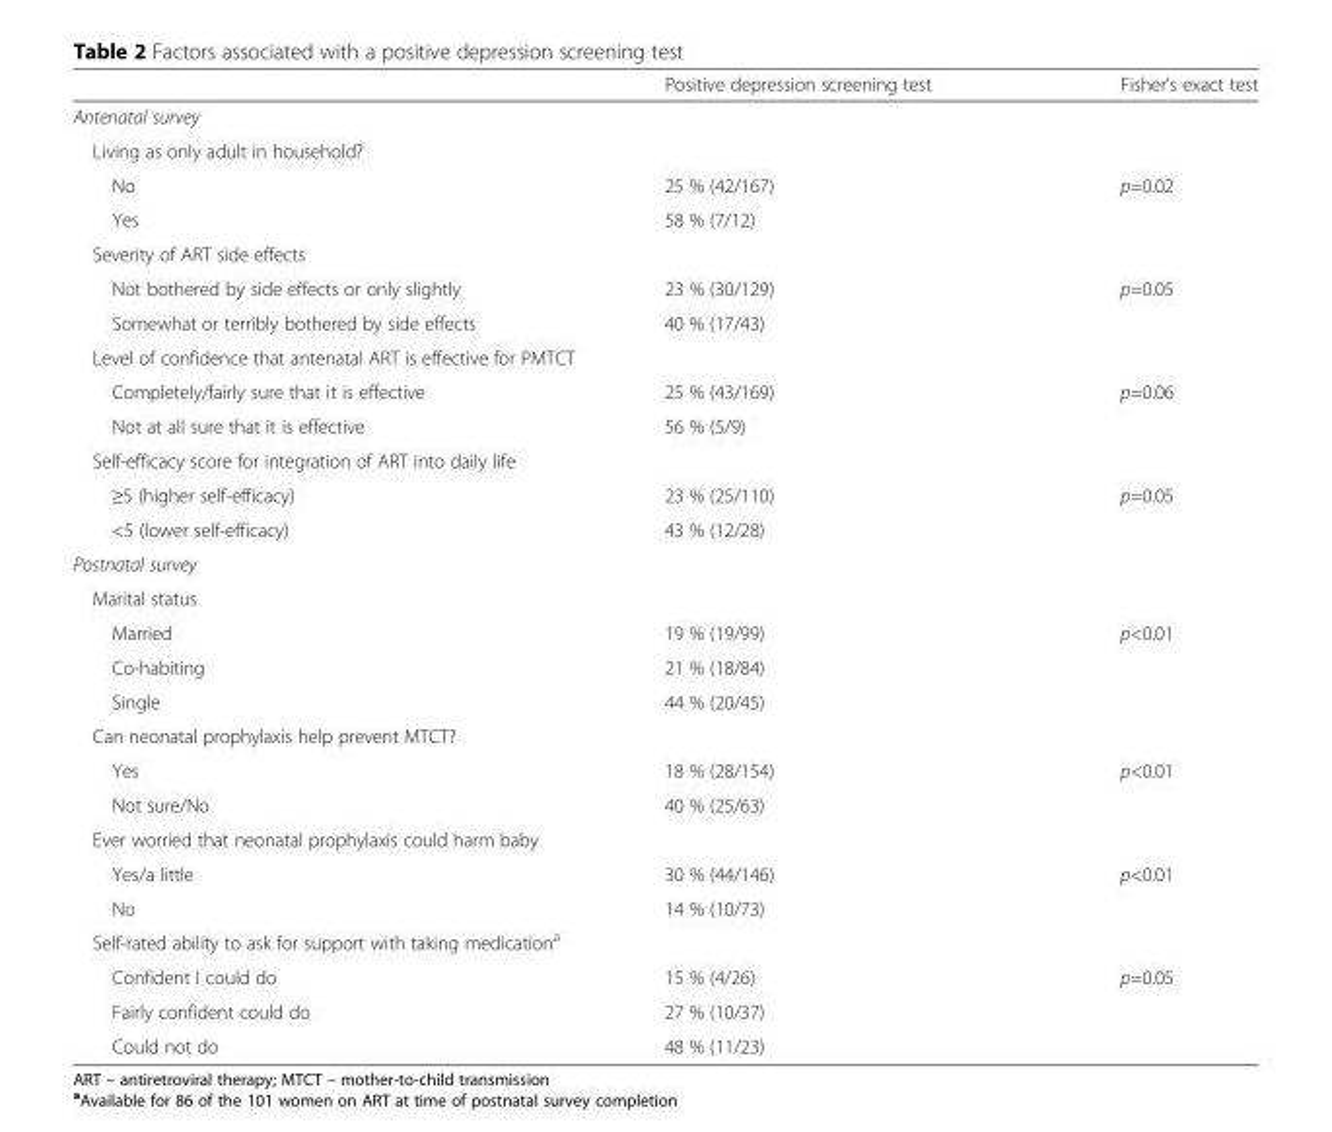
<table><thead><tr><td></td><td>Positive depression screening test</td><td>Fisher’s exact test</td></tr></thead><tbody><tr><td colspan="3">Antenatal survey</td></tr><tr><td colspan="3">Living as only adult in household?</td></tr><tr><td>No</td><td>25 % (42/167)</td><td>p=0.02</td></tr><tr><td>Yes</td><td>58 % (7/12)</td><td></td></tr><tr><td colspan="3">Severity of ART side effects</td></tr><tr><td>Not bothered by side effects or only slightly</td><td>23 % (30/129)</td><td>p=0.05</td></tr><tr><td>Somewhat or terribly bothered by side effects</td><td>40 % (17/43)</td><td></td></tr><tr><td colspan="3">Level of confidence that antenatal ART is effective for PMTCT</td></tr><tr><td>Completely/fairly sure that it is effective</td><td>25 % (43/169)</td><td>p=0.06</td></tr><tr><td>Not at all sure that it is effective</td><td>56 % (5/9)</td><td></td></tr><tr><td colspan="3">Self-efficacy score for integration of ART into daily life</td></tr><tr><td>≥5 (higher self-efficacy)</td><td>23 % (25/110)</td><td>p=0.05</td></tr><tr><td>&lt;5 (lower self-efficacy)</td><td>43 % (12/28)</td><td></td></tr><tr><td colspan="3">Postnatal survey</td></tr><tr><td colspan="3">Marital status</td></tr><tr><td>Married</td><td>19 % (19/99)</td><td>p&lt;0.01</td></tr><tr><td>Co-habiting</td><td>21 % (18/84)</td><td></td></tr><tr><td>Single</td><td>44 % (20/45)</td><td></td></tr><tr><td colspan="3">Can neonatal prophylaxis help prevent MTCT?</td></tr><tr><td>Yes</td><td>18 % (28/154)</td><td>p&lt;0.01</td></tr><tr><td>Not sure/No</td><td>40 % (25/63)</td><td></td></tr><tr><td colspan="3">Ever worried that neonatal prophylaxis could harm baby</td></tr><tr><td>Yes/a little</td><td>30 % (44/146)</td><td>p&lt;0.01</td></tr><tr><td>No</td><td>14 % (10/73)</td><td></td></tr><tr><td colspan="3">Self-rated ability to ask for support with taking medication<sup>a</sup></td></tr><tr><td>Confident I could do</td><td>15 % (4/26)</td><td>p=0.05</td></tr><tr><td>Fairly confident could do</td><td>27 % (10/37)</td><td></td></tr><tr><td>Could not do</td><td>48 % (11/23)</td><td></td></tr></tbody></table>